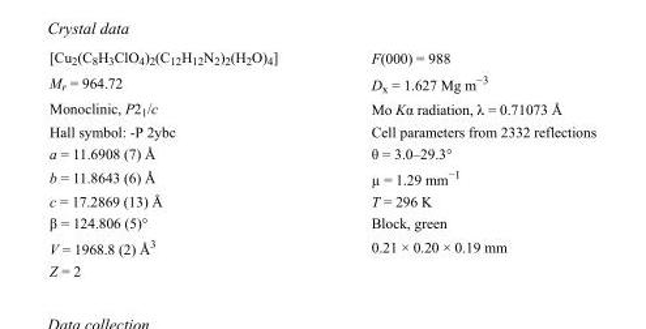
<table><tbody><tr><td>[Cu<sub>2</sub>(C<sub>8</sub>H<sub>3</sub>ClO<sub>4</sub>)<sub>2</sub>(C<sub>12</sub>H<sub>12</sub>N<sub>2</sub>)<sub>2</sub>(H<sub>2</sub>O)<sub>4</sub>]</td><td>F(000) = 988</td></tr><tr><td>M<sub>r</sub> = 964.72</td><td>D<sub>x</sub> = 1.627 Mg m<sup>−3</sup></td></tr><tr><td>Monoclinic, P2<sub>1</sub>/c</td><td>Mo Kα radiation, λ = 0.71073 Å</td></tr><tr><td>Hall symbol: -P 2ybc</td><td>Cell parameters from 2332 reflections</td></tr><tr><td>a = 11.6908 (7) Å</td><td>θ = 3.0–29.3°</td></tr><tr><td>b = 11.8643 (6) Å</td><td>µ = 1.29 mm<sup>−1</sup></td></tr><tr><td>c = 17.2869 (13) Å</td><td>T = 296 K</td></tr><tr><td>β = 124.806 (5)°</td><td>Block, green</td></tr><tr><td>V = 1968.8 (2) Å<sup>3</sup></td><td>0.21 × 0.20 × 0.19 mm</td></tr><tr><td>Z = 2</td><td></td></tr></tbody></table>